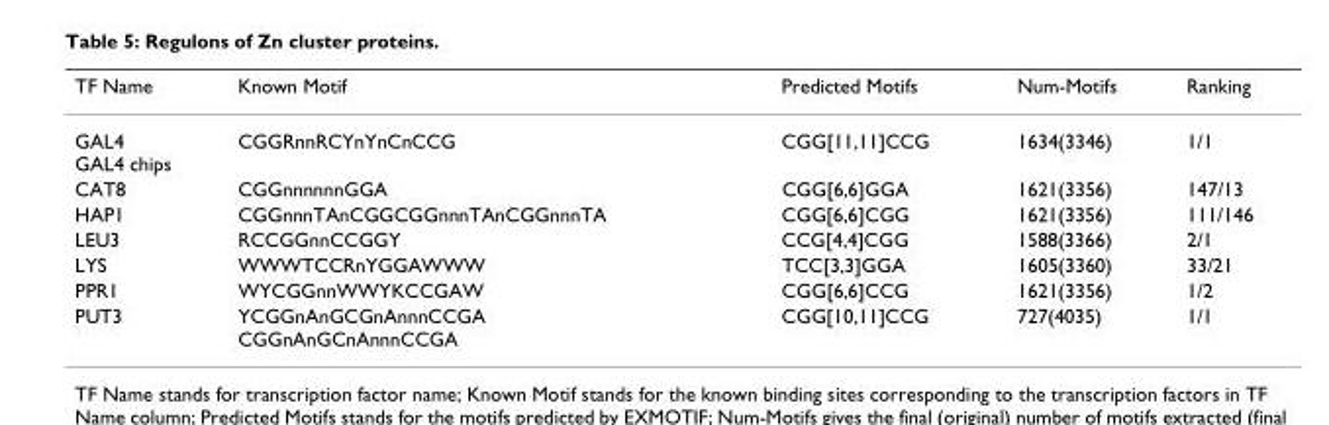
<table><thead><tr><td>TF Name</td><td>Known Motif</td><td>Predicted Motifs</td><td>Num-Motifs</td><td>Ranking</td></tr></thead><tbody><tr><td>GAL4 GAL4 chips</td><td>CGGRnnRCYnYnCnCCG</td><td>CGG[11,11]CCG</td><td>1634(3346)</td><td>1/1</td></tr><tr><td>CAT8</td><td>CGGnnnnnnGGA</td><td>CGG[6,6]GGA</td><td>1621(3356)</td><td>147/13</td></tr><tr><td>HAP1</td><td>CGGnnnTAnCGGCGGnnnTAnCGGnnnTA</td><td>CGG[6,6]CGG</td><td>1621(3356)</td><td>111/146</td></tr><tr><td>LEU3</td><td>RCCGGnnCCGGY</td><td>CCG[4,4]CGG</td><td>1588(3366)</td><td>2/1</td></tr><tr><td>LYS</td><td>WWWTCCRnYGGAWWW</td><td>TCC[3,3]GGA</td><td>1605(3360)</td><td>33/21</td></tr><tr><td>PPR1</td><td>WYCGGnnWWYKCCGAW</td><td>CGG[6,6]CCG</td><td>1621(3356)</td><td>1/2</td></tr><tr><td>PUT3</td><td>YCGGnAnGCGnAnnnCCGA CGGnAnGCnAnnnCCGA</td><td>CGG[10,11]CCG</td><td>727(4035)</td><td>1/1</td></tr></tbody></table>